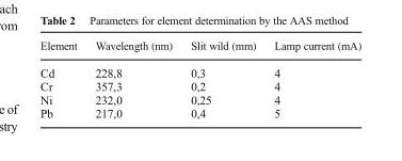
<table><thead><tr><td>Element</td><td>Wavelength (nm)</td><td>Slit wild (mm)</td><td>Lamp current (mA)</td></tr></thead><tbody><tr><td>Cd</td><td>228,8</td><td>0,3</td><td>4</td></tr><tr><td>Cr</td><td>357,3</td><td>0,2</td><td>4</td></tr><tr><td>Ni</td><td>232,0</td><td>0,25</td><td>4</td></tr><tr><td>Pb</td><td>217,0</td><td>0,4</td><td>5</td></tr></tbody></table>